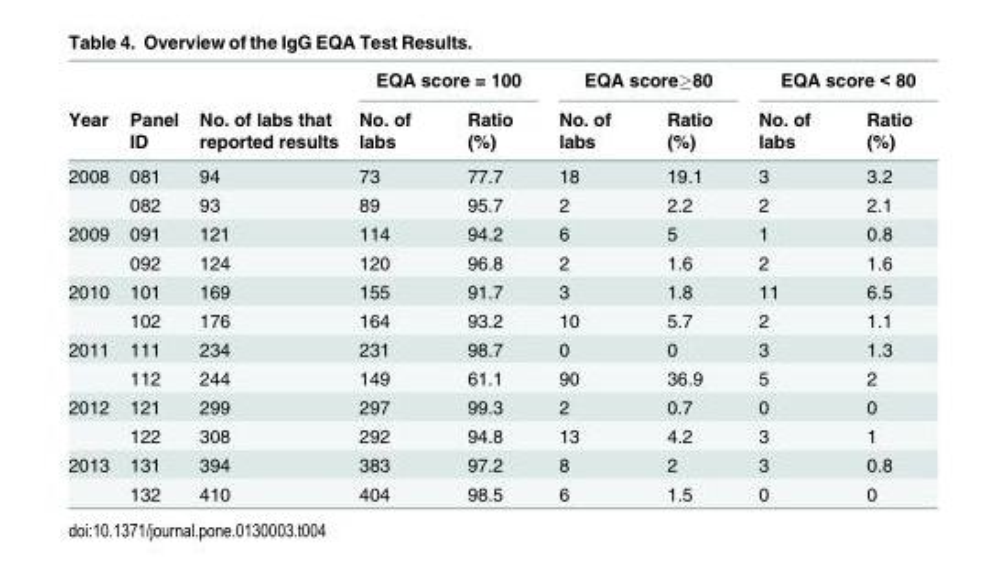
<table><thead><tr><td rowspan="2">Year</td><td rowspan="2">Panel ID</td><td rowspan="2">No. of labs that reported results</td><td colspan="2">EQA score = 100</td><td colspan="2">EQA score≥80</td><td colspan="2">EQA score &lt; 80</td></tr><tr><td>No. of labs</td><td>Ratio (%)</td><td>No. of labs</td><td>Ratio (%)</td><td>No. of labs</td><td>Ratio (%)</td></tr></thead><tbody><tr><td rowspan="2">2008</td><td>081</td><td>94</td><td>73</td><td>77.7</td><td>18</td><td>19.1</td><td>3</td><td>3.2</td></tr><tr><td>082</td><td>93</td><td>89</td><td>95.7</td><td>2</td><td>2.2</td><td>2</td><td>2.1</td></tr><tr><td rowspan="2">2009</td><td>091</td><td>121</td><td>114</td><td>94.2</td><td>6</td><td>5</td><td>1</td><td>0.8</td></tr><tr><td>092</td><td>124</td><td>120</td><td>96.8</td><td>2</td><td>1.6</td><td>2</td><td>1.6</td></tr><tr><td rowspan="2">2010</td><td>101</td><td>169</td><td>155</td><td>91.7</td><td>3</td><td>1.8</td><td>11</td><td>6.5</td></tr><tr><td>102</td><td>176</td><td>164</td><td>93.2</td><td>10</td><td>5.7</td><td>2</td><td>1.1</td></tr><tr><td rowspan="2">2011</td><td>111</td><td>234</td><td>231</td><td>98.7</td><td>0</td><td>0</td><td>3</td><td>1.3</td></tr><tr><td>112</td><td>244</td><td>149</td><td>61.1</td><td>90</td><td>36.9</td><td>5</td><td>2</td></tr><tr><td rowspan="2">2012</td><td>121</td><td>299</td><td>297</td><td>99.3</td><td>2</td><td>0.7</td><td>0</td><td>0</td></tr><tr><td>122</td><td>308</td><td>292</td><td>94.8</td><td>13</td><td>4.2</td><td>3</td><td>1</td></tr><tr><td rowspan="2">2013</td><td>131</td><td>394</td><td>383</td><td>97.2</td><td>8</td><td>2</td><td>3</td><td>0.8</td></tr><tr><td>132</td><td>410</td><td>404</td><td>98.5</td><td>6</td><td>1.5</td><td>0</td><td>0</td></tr></tbody></table>